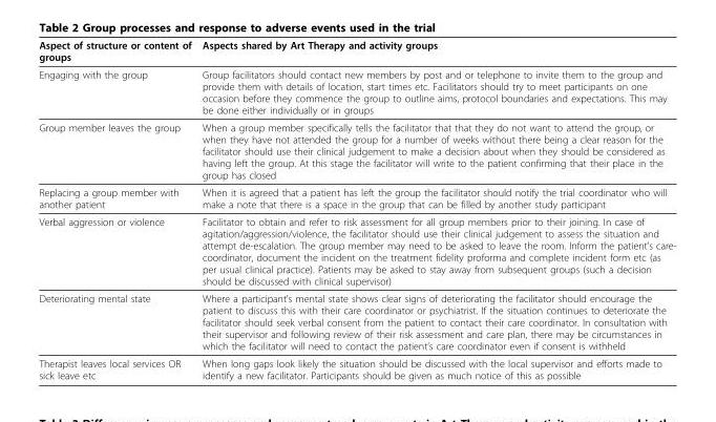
<table><thead><tr><td>Aspect of structure or content of groups</td><td>Aspects shared by Art Therapy and activity groups</td></tr></thead><tbody><tr><td>Engaging with the group</td><td>Group facilitators should contact new members by post and or telephone to invite them to the group and provide them with details of location, start times etc. Facilitators should try to meet participants on one occasion before they commence the group to outline aims, protocol boundaries and expectations. This may be done either individually or in groups</td></tr><tr><td>Group member leaves the group</td><td>When a group member specifically tells the facilitator that that they do not want to attend the group, or when they have not attended the group for a number of weeks without there being a clear reason for the facilitator should use their clinical judgement to make a decision about when they should be considered as having left the group. At this stage the facilitator will write to the patient confirming that their place in the group has closed</td></tr><tr><td>Replacing a group member with another patient</td><td>When it is agreed that a patient has left the group the facilitator should notify the trial coordinator who will make a note that there is a space in the group that can be filled by another study participant</td></tr><tr><td>Verbal aggression or violence</td><td>Facilitator to obtain and refer to risk assessment for all group members prior to their joining. In case of agitation/aggression/violence, the facilitator should use their clinical judgement to assess the situation and attempt de-escalation. The group member may need to be asked to leave the room. Inform the patient’s care- coordinator, document the incident on the treatment fidelity proforma and complete incident form etc (as per usual clinical practice). Patients may be asked to stay away from subsequent groups (such a decision should be discussed with clinical supervisor)</td></tr><tr><td>Deteriorating mental state</td><td>Where a participant’s mental state shows clear signs of deteriorating the facilitator should encourage the patient to discuss this with their care coordinator or psychiatrist. If the situation continues to deteriorate the facilitator should seek verbal consent from the patient to contact their care coordinator. In consultation with their supervisor and following review of their risk assessment and care plan, there may be circumstances in which the facilitator will need to contact the patient’s care coordinator even if consent is withheld</td></tr><tr><td>Therapist leaves local services OR sick leave etc</td><td>When long gaps look likely the situation should be discussed with the local supervisor and efforts made to identify a new facilitator. Participants should be given as much notice of this as possible</td></tr></tbody></table>